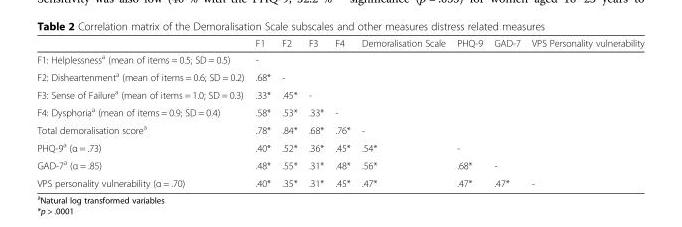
<table><thead><tr><td></td><td>F1</td><td>F2</td><td>F3</td><td>F4</td><td>Demoralisation Scale</td><td>PHQ-9</td><td>GAD-7</td><td>VPS Personality vulnerability</td></tr></thead><tbody><tr><td>F1: Helplessness<sup>a</sup> (mean of items = 0.5; SD = 0.5)</td><td>-</td><td></td><td></td><td></td><td></td><td></td><td></td><td></td></tr><tr><td>F2: Disheartenment<sup>a</sup> (mean of items = 0.6; SD = 0.2)</td><td>.68*</td><td>-</td><td></td><td></td><td></td><td></td><td></td><td></td></tr><tr><td>F3: Sense of Failure<sup>a</sup> (mean of items = 1.0; SD = 0.3)</td><td>.33*</td><td>.45*</td><td>-</td><td></td><td></td><td></td><td></td><td></td></tr><tr><td>F4: Dysphoria<sup>a</sup> (mean of items = 0.9; SD = 0.4)</td><td>.58*</td><td>.53*</td><td>.33*</td><td>-</td><td></td><td></td><td></td><td></td></tr><tr><td>Total demoralisation score<sup>a</sup></td><td>.78*</td><td>.84*</td><td>.68*</td><td>.76*</td><td>-</td><td></td><td></td><td></td></tr><tr><td>PHQ-9<sup>a</sup> (α = .73)</td><td>.40*</td><td>.52*</td><td>.36*</td><td>.45*</td><td>.54*</td><td>-</td><td></td><td></td></tr><tr><td>GAD-7<sup>a</sup> (α = .85)</td><td>.48*</td><td>.55*</td><td>.31*</td><td>.48*</td><td>.56*</td><td>.68*</td><td>-</td><td></td></tr><tr><td>VPS personality vulnerability (α = .70)</td><td>.40*</td><td>.35*</td><td>.31*</td><td>.45*</td><td>.47*</td><td>.47*</td><td>.47*</td><td>-</td></tr></tbody></table>